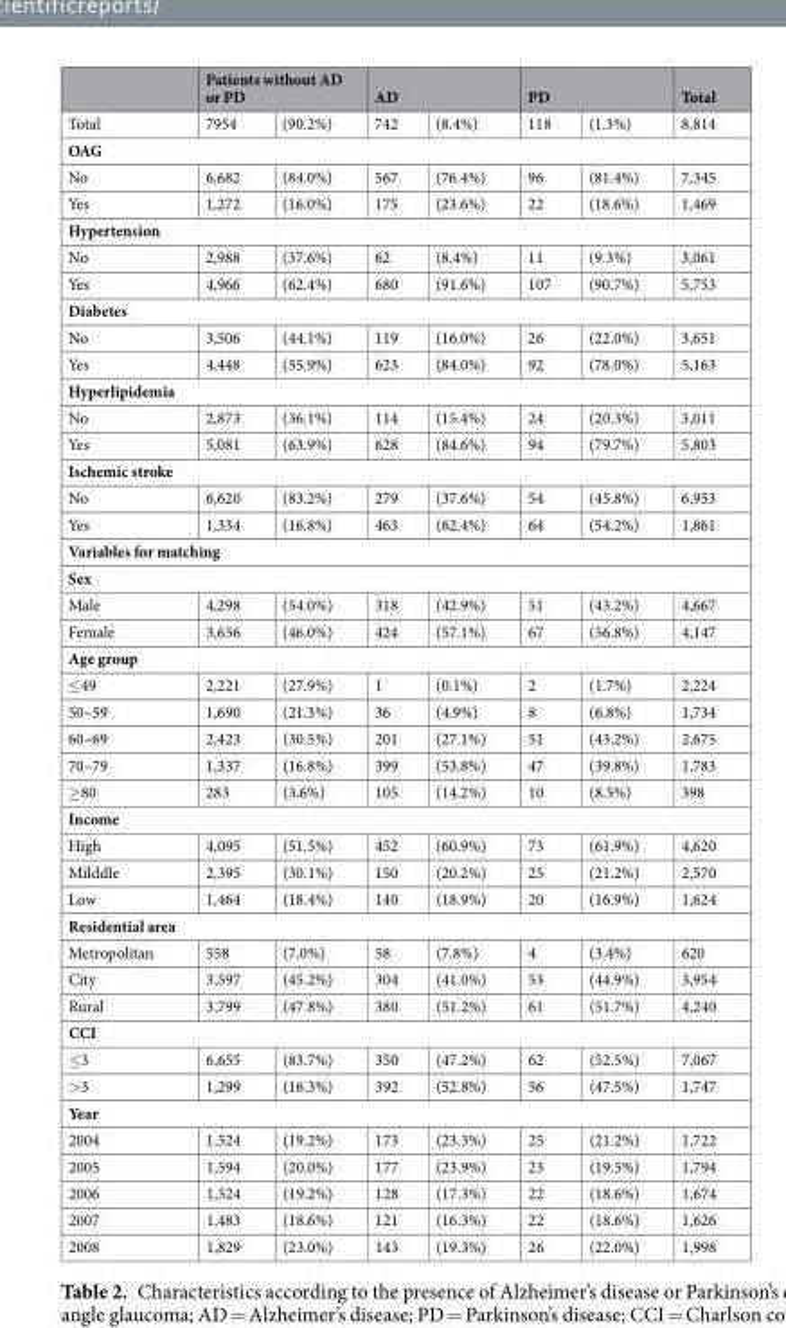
<table><thead><tr><td rowspan="2">Total</td><td colspan="2">Patients without AD or PD</td><td colspan="2">AD</td><td colspan="2">PD</td><td rowspan="2">Total 8,814</td></tr><tr><td>7954</td><td>(90.2%)</td><td>742</td><td>(8.4%)</td><td>118</td><td>(1.3%)</td></tr></thead><tbody><tr><td colspan="8">OAG</td></tr><tr><td>No</td><td>6,682</td><td>(84.0%)</td><td>567</td><td>(76.4%)</td><td>96</td><td>(81.4%)</td><td>7,345</td></tr><tr><td>Yes</td><td>1,272</td><td>(16.0%)</td><td>175</td><td>(23.6%)</td><td>22</td><td>(18.6%)</td><td>1,469</td></tr><tr><td colspan="8">Hypertension</td></tr><tr><td>No</td><td>2,988</td><td>(37.6%)</td><td>62</td><td>(8.4%)</td><td>11</td><td>(9.3%)</td><td>3,061</td></tr><tr><td>Yes</td><td>4,966</td><td>(62.4%)</td><td>680</td><td>(91.6%)</td><td>107</td><td>(90.7%)</td><td>5,753</td></tr><tr><td colspan="8">Diabetes</td></tr><tr><td>No</td><td>3,506</td><td>(44.1%)</td><td>119</td><td>(16.0%)</td><td>26</td><td>(22.0%)</td><td>3,651</td></tr><tr><td>Yes</td><td>4,448</td><td>(55.9%)</td><td>623</td><td>(84.0%)</td><td>92</td><td>(78.0%)</td><td>5,163</td></tr><tr><td colspan="8">Hyperlipidemia</td></tr><tr><td>No</td><td>2,873</td><td>(36.1%)</td><td>114</td><td>(15.4%)</td><td>24</td><td>(20.3%)</td><td>3,011</td></tr><tr><td>Yes</td><td>5,081</td><td>(63.9%)</td><td>628</td><td>(84.6%)</td><td>94</td><td>(79.7%)</td><td>5,803</td></tr><tr><td colspan="8">Ischemic stroke</td></tr><tr><td>No</td><td>6,620</td><td>(83.2%)</td><td>279</td><td>(37.6%)</td><td>54</td><td>(45.8%)</td><td>6,953</td></tr><tr><td>Yes</td><td>1,334</td><td>(16.8%)</td><td>463</td><td>(62.4%)</td><td>64</td><td>(54.2%)</td><td>1,861</td></tr><tr><td colspan="8">Variables for matching</td></tr><tr><td colspan="8">Sex</td></tr><tr><td>Male</td><td>4,298</td><td>(54.0%)</td><td>318</td><td>(42.9%)</td><td>51</td><td>(43.2%)</td><td>4,667</td></tr><tr><td>Female</td><td>3,656</td><td>(46.0%)</td><td>424</td><td>(57.1%)</td><td>67</td><td>(56.8%)</td><td>4,147</td></tr><tr><td colspan="8">Age group</td></tr><tr><td>≤49</td><td>2,221</td><td>(27.9%)</td><td>1</td><td>(0.1%)</td><td>2</td><td>(1.7%)</td><td>2,224</td></tr><tr><td>50–59</td><td>1,690</td><td>(21.3%)</td><td>36</td><td>(4.9%)</td><td>8</td><td>(6.8%)</td><td>1,734</td></tr><tr><td>60–69</td><td>2,423</td><td>(30.5%)</td><td>201</td><td>(27.1%)</td><td>51</td><td>(43.2%)</td><td>2,675</td></tr><tr><td>70–79</td><td>1,337</td><td>(16.8%)</td><td>399</td><td>(53.8%)</td><td>47</td><td>(39.8%)</td><td>1,783</td></tr><tr><td>≥80</td><td>283</td><td>(3.6%)</td><td>105</td><td>(14.2%)</td><td>10</td><td>(8.5%)</td><td>398</td></tr><tr><td colspan="8">Income</td></tr><tr><td>High</td><td>4,095</td><td>(51.5%)</td><td>452</td><td>(60.9%)</td><td>73</td><td>(61.9%)</td><td>4,620</td></tr><tr><td>Milddle</td><td>2,395</td><td>(30.1%)</td><td>150</td><td>(20.2%)</td><td>25</td><td>(21.2%)</td><td>2,570</td></tr><tr><td>Low</td><td>1,464</td><td>(18.4%)</td><td>140</td><td>(18.9%)</td><td>20</td><td>(16.9%)</td><td>1,624</td></tr><tr><td colspan="8">Residential area</td></tr><tr><td>Metropolitan</td><td>558</td><td>(7.0%)</td><td>58</td><td>(7.8%)</td><td>4</td><td>(3.4%)</td><td>620</td></tr><tr><td>City</td><td>3,597</td><td>(45.2%)</td><td>304</td><td>(41.0%)</td><td>53</td><td>(44.9%)</td><td>3,954</td></tr><tr><td>Rural</td><td>3,799</td><td>(47.8%)</td><td>380</td><td>(51.2%)</td><td>61</td><td>(51.7%)</td><td>4,240</td></tr><tr><td colspan="8">CCI</td></tr><tr><td>≤3</td><td>6,655</td><td>(83.7%)</td><td>350</td><td>(47.2%)</td><td>62</td><td>(52.5%)</td><td>7,067</td></tr><tr><td>&gt;3</td><td>1,299</td><td>(16.3%)</td><td>392</td><td>(52.8%)</td><td>56</td><td>(47.5%)</td><td>1,747</td></tr><tr><td colspan="8">Year</td></tr><tr><td>2004</td><td>1,524</td><td>(19.2%)</td><td>173</td><td>(23.3%)</td><td>25</td><td>(21.2%)</td><td>1,722</td></tr><tr><td>2005</td><td>1,594</td><td>(20.0%)</td><td>177</td><td>(23.9%)</td><td>23</td><td>(19.5%)</td><td>1,794</td></tr><tr><td>2006</td><td>1,524</td><td>(19.2%)</td><td>128</td><td>(17.3%)</td><td>22</td><td>(18.6%)</td><td>1,674</td></tr><tr><td>2007</td><td>1,483</td><td>(18.6%)</td><td>121</td><td>(16.3%)</td><td>22</td><td>(18.6%)</td><td>1,626</td></tr><tr><td>2008</td><td>1,829</td><td>(23.0%)</td><td>143</td><td>(19.3%)</td><td>26</td><td>(22.0%)</td><td>1,998</td></tr></tbody></table>